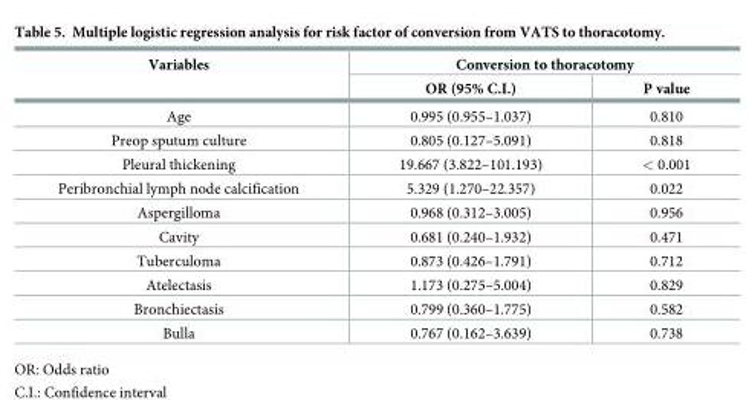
<table><thead><tr><td rowspan="2">Variables</td><td colspan="2">Conversion to thoracotomy</td></tr><tr><td>OR (95% C.I.)</td><td>P value</td></tr></thead><tbody><tr><td>Age</td><td>0.995 (0.955–1.037)</td><td>0.810</td></tr><tr><td>Preop sputum culture</td><td>0.805 (0.127–5.091)</td><td>0.818</td></tr><tr><td>Pleural thickening</td><td>19.667 (3.822–101.193)</td><td>&lt; 0.001</td></tr><tr><td>Peribronchial lymph node calcification</td><td>5.329 (1.270–22.357)</td><td>0.022</td></tr><tr><td>Aspergilloma</td><td>0.968 (0.312–3.005)</td><td>0.956</td></tr><tr><td>Cavity</td><td>0.681 (0.240–1.932)</td><td>0.471</td></tr><tr><td>Tuberculoma</td><td>0.873 (0.426–1.791)</td><td>0.712</td></tr><tr><td>Atelectasis</td><td>1.173 (0.275–5.004)</td><td>0.829</td></tr><tr><td>Bronchiectasis</td><td>0.799 (0.360–1.775)</td><td>0.582</td></tr><tr><td>Bulla</td><td>0.767 (0.162–3.639)</td><td>0.738</td></tr></tbody></table>